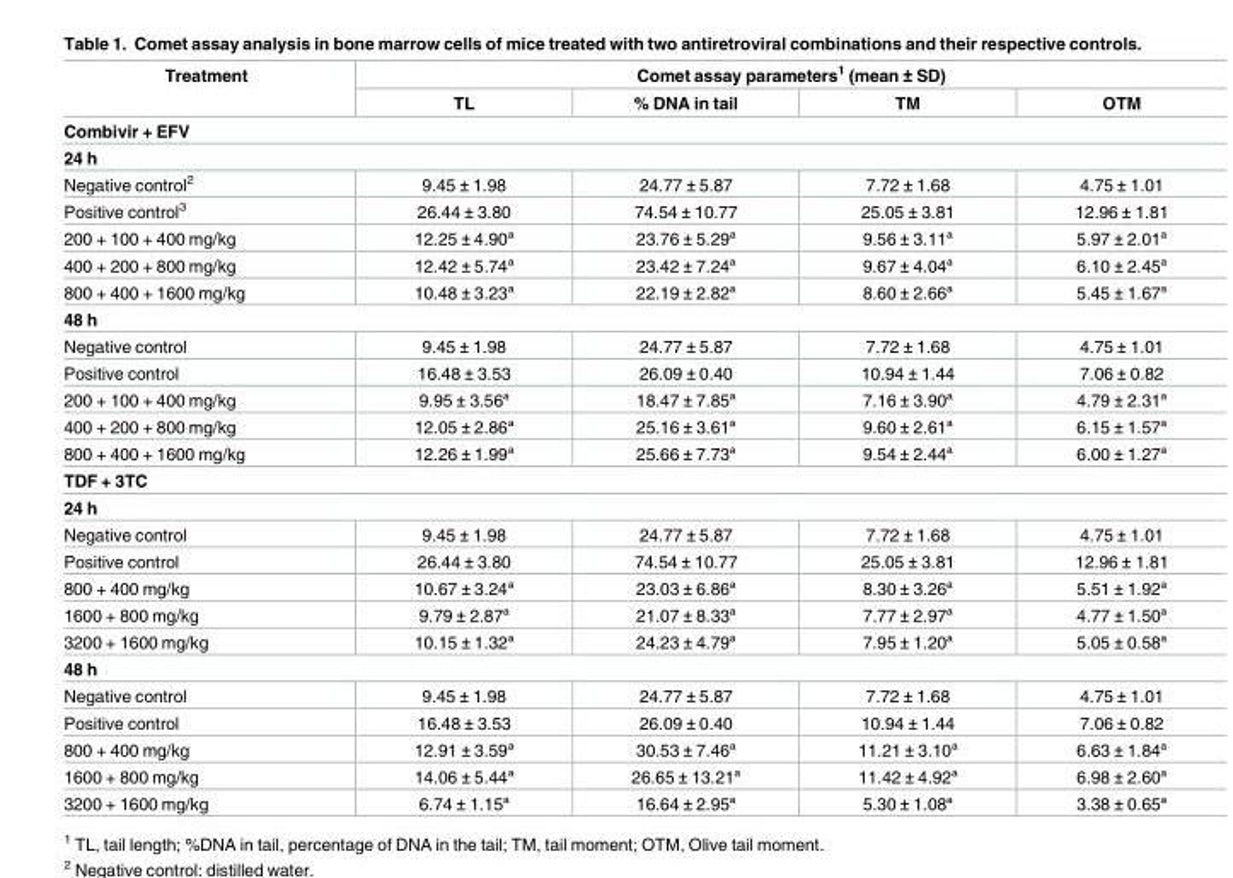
<table><thead><tr><td rowspan="2">Treatment</td><td colspan="4">Comet assay parameters<sup>1</sup> (mean ± SD)</td></tr><tr><td>TL</td><td>% DNA in tail</td><td>TM</td><td>OTM</td></tr></thead><tbody><tr><td colspan="5">Combivir + EFV</td></tr><tr><td colspan="5">24 h</td></tr><tr><td>Negative control<sup>2</sup></td><td>9.45 ± 1.98</td><td>24.77 ± 5.87</td><td>7.72 ± 1.68</td><td>4.75 ± 1.01</td></tr><tr><td>Positive control<sup>3</sup></td><td>26.44 ± 3.80</td><td>74.54 ± 10.77</td><td>25.05 ± 3.81</td><td>12.96 ± 1.81</td></tr><tr><td>200 + 100 + 400 mg/kg</td><td>12.25 ± 4.90ª</td><td>23.76 ± 5.29ª</td><td>9.56 ± 3.11ª</td><td>5.97 ± 2.01ª</td></tr><tr><td>400 + 200 + 800 mg/kg</td><td>12.42 ± 5.74ª</td><td>23.42 ± 7.24ª</td><td>9.67 ± 4.04ª</td><td>6.10 ± 2.45ª</td></tr><tr><td>800 + 400 + 1600 mg/kg</td><td>10.48 ± 3.23ª</td><td>22.19 ± 2.82ª</td><td>8.60 ± 2.66ª</td><td>5.45 ± 1.67ª</td></tr><tr><td colspan="5">48 h</td></tr><tr><td>Negative control</td><td>9.45 ± 1.98</td><td>24.77 ± 5.87</td><td>7.72 ± 1.68</td><td>4.75 ± 1.01</td></tr><tr><td>Positive control</td><td>16.48 ± 3.53</td><td>26.09 ± 0.40</td><td>10.94 ± 1.44</td><td>7.06 ± 0.82</td></tr><tr><td>200 + 100 + 400 mg/kg</td><td>9.95 ± 3.56ª</td><td>18.47 ± 7.85ª</td><td>7.16 ± 3.90ª</td><td>4.79 ± 2.31ª</td></tr><tr><td>400 + 200 + 800 mg/kg</td><td>12.05 ± 2.86ª</td><td>25.16 ± 3.61ª</td><td>9.60 ± 2.61ª</td><td>6.15 ± 1.57ª</td></tr><tr><td>800 + 400 + 1600 mg/kg</td><td>12.26 ± 1.99ª</td><td>25.66 ± 7.73ª</td><td>9.54 ± 2.44ª</td><td>6.00 ± 1.27ª</td></tr><tr><td colspan="5">TDF + 3TC</td></tr><tr><td colspan="5">24 h</td></tr><tr><td>Negative control</td><td>9.45 ± 1.98</td><td>24.77 ± 5.87</td><td>7.72 ± 1.68</td><td>4.75 ± 1.01</td></tr><tr><td>Positive control</td><td>26.44 ± 3.80</td><td>74.54 ± 10.77</td><td>25.05 ± 3.81</td><td>12.96 ± 1.81</td></tr><tr><td>800 + 400 mg/kg</td><td>10.67 ± 3.24ª</td><td>23.03 ± 6.86ª</td><td>8.30 ± 3.26ª</td><td>5.51 ± 1.92ª</td></tr><tr><td>1600 + 800 mg/kg</td><td>9.79 ± 2.87ª</td><td>21.07 ± 8.33ª</td><td>7.77 ± 2.97ª</td><td>4.77 ± 1.50ª</td></tr><tr><td>3200 + 1600 mg/kg</td><td>10.15 ± 1.32ª</td><td>24.23 ± 4.79ª</td><td>7.95 ± 1.20ª</td><td>5.05 ± 0.58ª</td></tr><tr><td colspan="5">48 h</td></tr><tr><td>Negative control</td><td>9.45 ± 1.98</td><td>24.77 ± 5.87</td><td>7.72 ± 1.68</td><td>4.75 ± 1.01</td></tr><tr><td>Positive control</td><td>16.48 ± 3.53</td><td>26.09 ± 0.40</td><td>10.94 ± 1.44</td><td>7.06 ± 0.82</td></tr><tr><td>800 + 400 mg/kg</td><td>12.91 ± 3.59ª</td><td>30.53 ± 7.46ª</td><td>11.21 ± 3.10ª</td><td>6.63 ± 1.84ª</td></tr><tr><td>1600 + 800 mg/kg</td><td>14.06 ± 5.44ª</td><td>26.65 ± 13.21ª</td><td>11.42 ± 4.92ª</td><td>6.98 ± 2.60ª</td></tr><tr><td>3200 + 1600 mg/kg</td><td>6.74 ± 1.15ª</td><td>16.64 ± 2.95ª</td><td>5.30 ± 1.08ª</td><td>3.38 ± 0.65ª</td></tr></tbody></table>